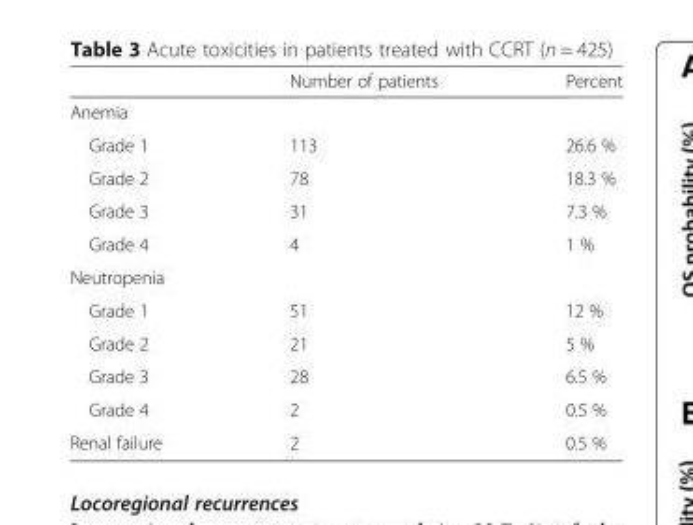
<table><thead><tr><td></td><td>Number of patients</td><td>Percent</td></tr></thead><tbody><tr><td colspan="3">Anemia</td></tr><tr><td>Grade 1</td><td>113</td><td>26.6 %</td></tr><tr><td>Grade 2</td><td>78</td><td>18.3 %</td></tr><tr><td>Grade 3</td><td>31</td><td>7.3 %</td></tr><tr><td>Grade 4</td><td>4</td><td>1 %</td></tr><tr><td colspan="3">Neutropenia</td></tr><tr><td>Grade 1</td><td>51</td><td>12 %</td></tr><tr><td>Grade 2</td><td>21</td><td>5 %</td></tr><tr><td>Grade 3</td><td>28</td><td>6.5 %</td></tr><tr><td>Grade 4</td><td>2</td><td>0.5 %</td></tr><tr><td>Renal failure</td><td>2</td><td>0.5 %</td></tr></tbody></table>